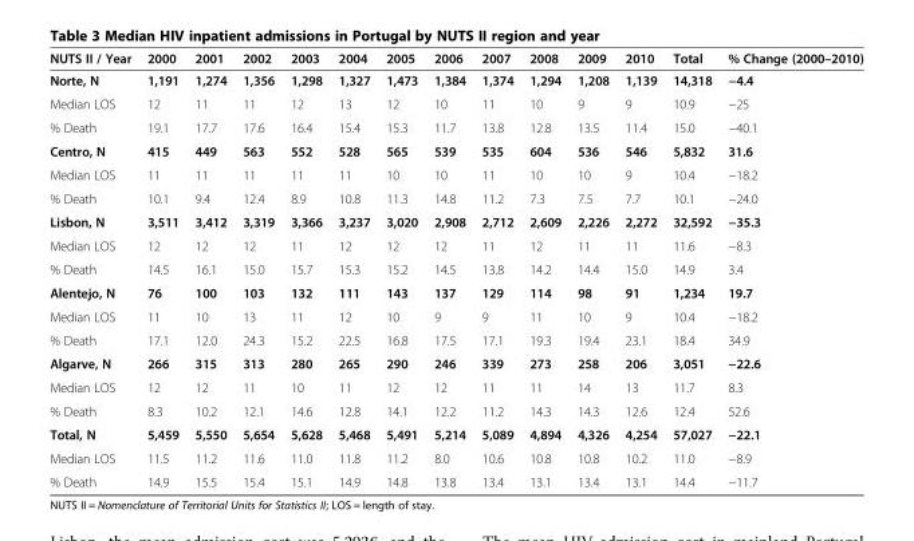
<table><thead><tr><td>NUTS II / Year</td><td>2000</td><td>2001</td><td>2002</td><td>2003</td><td>2004</td><td>2005</td><td>2006</td><td>2007</td><td>2008</td><td>2009</td><td>2010</td><td>Total</td><td>% Change (2000–2010)</td></tr></thead><tbody><tr><td>Norte, N</td><td>1,191</td><td>1,274</td><td>1,356</td><td>1,298</td><td>1,327</td><td>1,473</td><td>1,384</td><td>1,374</td><td>1,294</td><td>1,208</td><td>1,139</td><td>14,318</td><td>−4.4</td></tr><tr><td>Median LOS</td><td>12</td><td>11</td><td>11</td><td>12</td><td>13</td><td>12</td><td>10</td><td>11</td><td>10</td><td>9</td><td>9</td><td>10.9</td><td>−25</td></tr><tr><td>% Death</td><td>19.1</td><td>17.7</td><td>17.6</td><td>16.4</td><td>15.4</td><td>15.3</td><td>11.7</td><td>13.8</td><td>12.8</td><td>13.5</td><td>11.4</td><td>15.0</td><td>−40.1</td></tr><tr><td>Centro, N</td><td>415</td><td>449</td><td>563</td><td>552</td><td>528</td><td>565</td><td>539</td><td>535</td><td>604</td><td>536</td><td>546</td><td>5,832</td><td>31.6</td></tr><tr><td>Median LOS</td><td>11</td><td>11</td><td>11</td><td>11</td><td>11</td><td>10</td><td>10</td><td>11</td><td>10</td><td>10</td><td>9</td><td>10.4</td><td>−18.2</td></tr><tr><td>% Death</td><td>10.1</td><td>9.4</td><td>12.4</td><td>8.9</td><td>10.8</td><td>11.3</td><td>14.8</td><td>11.2</td><td>7.3</td><td>7.5</td><td>7.7</td><td>10.1</td><td>−24.0</td></tr><tr><td>Lisbon, N</td><td>3,511</td><td>3,412</td><td>3,319</td><td>3,366</td><td>3,237</td><td>3,020</td><td>2,908</td><td>2,712</td><td>2,609</td><td>2,226</td><td>2,272</td><td>32,592</td><td>−35.3</td></tr><tr><td>Median LOS</td><td>12</td><td>12</td><td>12</td><td>11</td><td>12</td><td>12</td><td>12</td><td>11</td><td>12</td><td>11</td><td>11</td><td>11.6</td><td>−8.3</td></tr><tr><td>% Death</td><td>14.5</td><td>16.1</td><td>15.0</td><td>15.7</td><td>15.3</td><td>15.2</td><td>14.5</td><td>13.8</td><td>14.2</td><td>14.4</td><td>15.0</td><td>14.9</td><td>3.4</td></tr><tr><td>Alentejo, N</td><td>76</td><td>100</td><td>103</td><td>132</td><td>111</td><td>143</td><td>137</td><td>129</td><td>114</td><td>98</td><td>91</td><td>1,234</td><td>19.7</td></tr><tr><td>Median LOS</td><td>11</td><td>10</td><td>13</td><td>11</td><td>12</td><td>10</td><td>9</td><td>9</td><td>11</td><td>10</td><td>9</td><td>10.4</td><td>−18.2</td></tr><tr><td>% Death</td><td>17.1</td><td>12.0</td><td>24.3</td><td>15.2</td><td>22.5</td><td>16.8</td><td>17.5</td><td>17.1</td><td>19.3</td><td>19.4</td><td>23.1</td><td>18.4</td><td>34.9</td></tr><tr><td>Algarve, N</td><td>266</td><td>315</td><td>313</td><td>280</td><td>265</td><td>290</td><td>246</td><td>339</td><td>273</td><td>258</td><td>206</td><td>3,051</td><td>−22.6</td></tr><tr><td>Median LOS</td><td>12</td><td>12</td><td>11</td><td>10</td><td>11</td><td>12</td><td>12</td><td>11</td><td>11</td><td>14</td><td>13</td><td>11.7</td><td>8.3</td></tr><tr><td>% Death</td><td>8.3</td><td>10.2</td><td>12.1</td><td>14.6</td><td>12.8</td><td>14.1</td><td>12.2</td><td>11.2</td><td>14.3</td><td>14.3</td><td>12.6</td><td>12.4</td><td>52.6</td></tr><tr><td>Total, N</td><td>5,459</td><td>5,550</td><td>5,654</td><td>5,628</td><td>5,468</td><td>5,491</td><td>5,214</td><td>5,089</td><td>4,894</td><td>4,326</td><td>4,254</td><td>57,027</td><td>−22.1</td></tr><tr><td>Median LOS</td><td>11.5</td><td>11.2</td><td>11.6</td><td>11.0</td><td>11.8</td><td>11.2</td><td>8.0</td><td>10.6</td><td>10.8</td><td>10.8</td><td>10.2</td><td>11.0</td><td>−8.9</td></tr><tr><td>% Death</td><td>14.9</td><td>15.5</td><td>15.4</td><td>15.1</td><td>14.9</td><td>14.8</td><td>13.8</td><td>13.4</td><td>13.1</td><td>13.4</td><td>13.1</td><td>14.4</td><td>−11.7</td></tr></tbody></table>